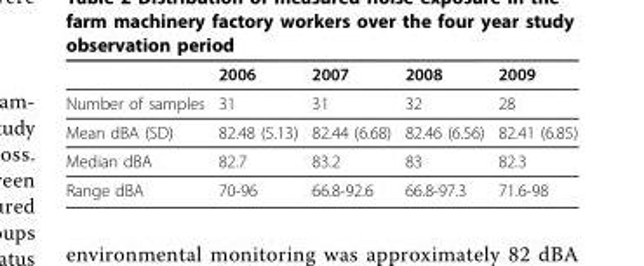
<table><thead><tr><td></td><td>2006</td><td>2007</td><td>2008</td><td>2009</td></tr></thead><tbody><tr><td>Number of samples</td><td>31</td><td>31</td><td>32</td><td>28</td></tr><tr><td>Mean dBA (SD)</td><td>82.48 (5.13)</td><td>82.44 (6.68)</td><td>82.46 (6.56)</td><td>82.41 (6.85)</td></tr><tr><td>Median dBA</td><td>82.7</td><td>83.2</td><td>83</td><td>82.3</td></tr><tr><td>Range dBA</td><td>70-96</td><td>66.8-92.6</td><td>66.8-97.3</td><td>71.6-98</td></tr></tbody></table>